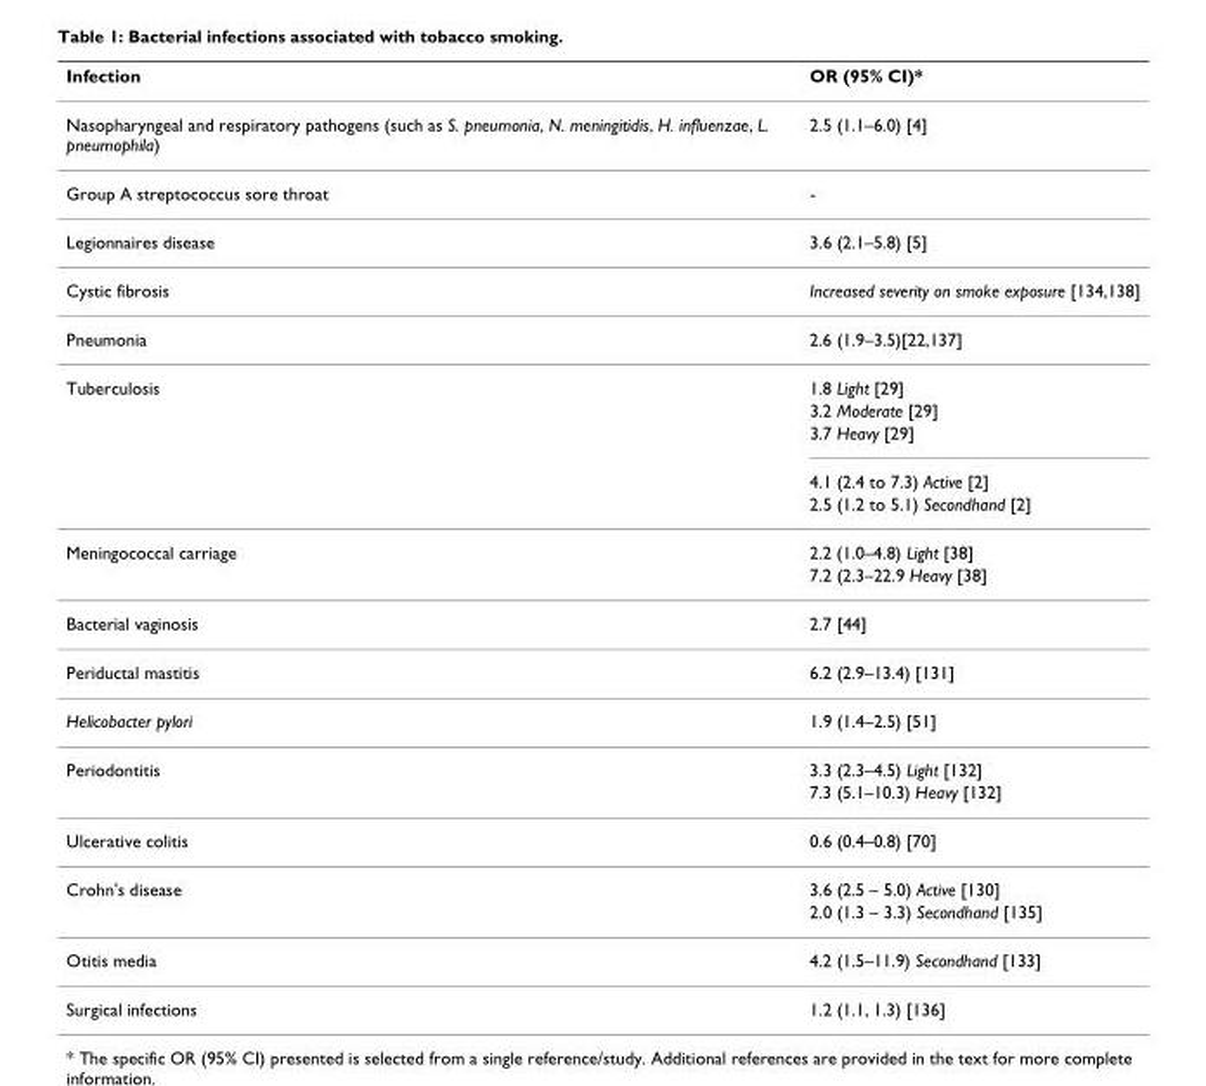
<table><thead><tr><td>Infection</td><td>OR (95% CI)*</td></tr></thead><tbody><tr><td>Nasopharyngeal and respiratory pathogens (such as S. pneumonia, N. meningitidis, H. influenzae, L. pneumophila)</td><td>2.5 (1.1–6.0) [4]</td></tr><tr><td>Group A streptococcus sore throat</td><td>-</td></tr><tr><td>Legionnaires disease</td><td>3.6 (2.1–5.8) [5]</td></tr><tr><td>Cystic fibrosis</td><td>Increased severity on smoke exposure [134,138]</td></tr><tr><td>Pneumonia</td><td>2.6 (1.9–3.5)[22,137]</td></tr><tr><td rowspan="5">Tuberculosis</td><td>1.8 Light [29]</td></tr><tr><td>3.2 Moderate [29]</td></tr><tr><td>3.7 Heavy [29]</td></tr><tr><td>4.1 (2.4 to 7.3) Active [2]</td></tr><tr><td>2.5 (1.2 to 5.1) Secondhand [2]</td></tr><tr><td rowspan="2">Meningococcal carriage</td><td>2.2 (1.0–4.8) Light [38]</td></tr><tr><td>7.2 (2.3–22.9 Heavy [38]</td></tr><tr><td>Bacterial vaginosis</td><td>2.7 [44]</td></tr><tr><td>Periductal mastitis</td><td>6.2 (2.9–13.4) [131]</td></tr><tr><td>Helicobacter pylori</td><td>1.9 (1.4–2.5) [51]</td></tr><tr><td rowspan="2">Periodontitis</td><td>3.3 (2.3–4.5) Light [132]</td></tr><tr><td>7.3 (5.1–10.3) Heavy [132]</td></tr><tr><td>Ulcerative colitis</td><td>0.6 (0.4–0.8) [70]</td></tr><tr><td rowspan="2">Crohn&#x27;s disease</td><td>3.6 (2.5 – 5.0) Active [130]</td></tr><tr><td>2.0 (1.3 – 3.3) Secondhand [135]</td></tr><tr><td>Otitis media</td><td>4.2 (1.5–11.9) Secondhand [133]</td></tr><tr><td>Surgical infections</td><td>1.2 (1.1, 1.3) [136]</td></tr></tbody></table>